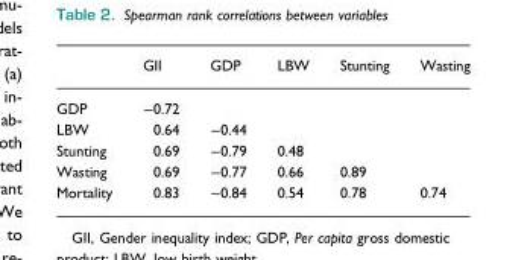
<table><thead><tr><td></td><td>GII</td><td>GDP</td><td>LBW</td><td>Stunting</td><td>Wasting</td></tr></thead><tbody><tr><td>GDP</td><td>−0.72</td><td></td><td></td><td></td><td></td></tr><tr><td>LBW</td><td>0.64</td><td>−0.44</td><td></td><td></td><td></td></tr><tr><td>Stunting</td><td>0.69</td><td>−0.79</td><td>0.48</td><td></td><td></td></tr><tr><td>Wasting</td><td>0.69</td><td>−0.77</td><td>0.66</td><td>0.89</td><td></td></tr><tr><td>Mortality</td><td>0.83</td><td>−0.84</td><td>0.54</td><td>0.78</td><td>0.74</td></tr></tbody></table>